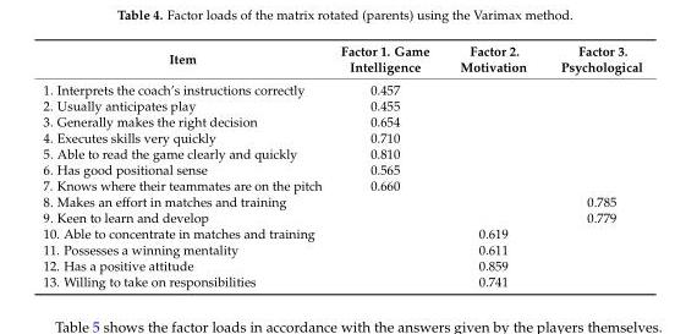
<table><thead><tr><td>Item</td><td>Factor 1. Game Intelligence</td><td>Factor 2. Motivation</td><td>Factor 3. Psychological</td></tr></thead><tbody><tr><td>1. Interprets the coach’s instructions correctly</td><td>0.457</td><td></td><td></td></tr><tr><td>2. Usually anticipates play</td><td>0.455</td><td></td><td></td></tr><tr><td>3. Generally makes the right decision</td><td>0.654</td><td></td><td></td></tr><tr><td>4. Executes skills very quickly</td><td>0.710</td><td></td><td></td></tr><tr><td>5. Able to read the game clearly and quickly</td><td>0.810</td><td></td><td></td></tr><tr><td>6. Has good positional sense</td><td>0.565</td><td></td><td></td></tr><tr><td>7. Knows where their teammates are on the pitch</td><td>0.660</td><td></td><td></td></tr><tr><td>8. Makes an effort in matches and training</td><td></td><td></td><td>0.785</td></tr><tr><td>9. Keen to learn and develop</td><td></td><td></td><td>0.779</td></tr><tr><td>10. Able to concentrate in matches and training</td><td></td><td>0.619</td><td></td></tr><tr><td>11. Possesses a winning mentality</td><td></td><td>0.611</td><td></td></tr><tr><td>12. Has a positive attitude</td><td></td><td>0.859</td><td></td></tr><tr><td>13. Willing to take on responsibilities</td><td></td><td>0.741</td><td></td></tr></tbody></table>